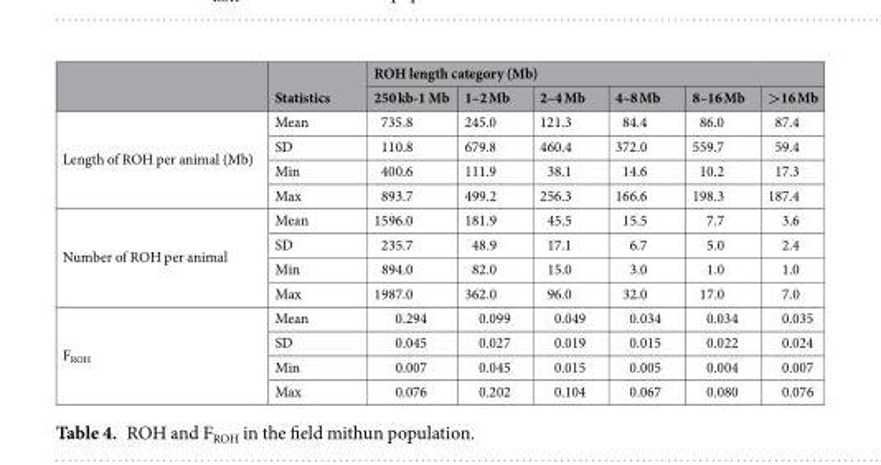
<table><thead><tr><td rowspan="2"></td><td rowspan="2">Statistics</td><td colspan="6">ROH length category (Mb)</td></tr><tr><td>250 kb-1 Mb</td><td>1–2 Mb</td><td>2–4 Mb</td><td>4–8 Mb</td><td>8–16 Mb</td><td>&gt;16 Mb</td></tr></thead><tbody><tr><td rowspan="4">Length of ROH per animal (Mb)</td><td>Mean</td><td>735.8</td><td>245.0</td><td>121.3</td><td>84.4</td><td>86.0</td><td>87.4</td></tr><tr><td>SD</td><td>110.8</td><td>679.8</td><td>460.4</td><td>372.0</td><td>559.7</td><td>59.4</td></tr><tr><td>Min</td><td>400.6</td><td>111.9</td><td>38.1</td><td>14.6</td><td>10.2</td><td>17.3</td></tr><tr><td>Max</td><td>893.7</td><td>499.2</td><td>256.3</td><td>166.6</td><td>198.3</td><td>187.4</td></tr><tr><td rowspan="4">Number of ROH per animal</td><td>Mean</td><td>1596.0</td><td>181.9</td><td>45.5</td><td>15.5</td><td>7.7</td><td>3.6</td></tr><tr><td>SD</td><td>235.7</td><td>48.9</td><td>17.1</td><td>6.7</td><td>5.0</td><td>2.4</td></tr><tr><td>Min</td><td>894.0</td><td>82.0</td><td>15.0</td><td>3.0</td><td>1.0</td><td>1.0</td></tr><tr><td>Max</td><td>1987.0</td><td>362.0</td><td>96.0</td><td>32.0</td><td>17.0</td><td>7.0</td></tr><tr><td rowspan="4">F<sub>ROH</sub></td><td>Mean</td><td>0.294</td><td>0.099</td><td>0.049</td><td>0.034</td><td>0.034</td><td>0.035</td></tr><tr><td>SD</td><td>0.045</td><td>0.027</td><td>0.019</td><td>0.015</td><td>0.022</td><td>0.024</td></tr><tr><td>Min</td><td>0.007</td><td>0.045</td><td>0.015</td><td>0.005</td><td>0.004</td><td>0.007</td></tr><tr><td>Max</td><td>0.076</td><td>0.202</td><td>0.104</td><td>0.067</td><td>0.080</td><td>0.076</td></tr></tbody></table>